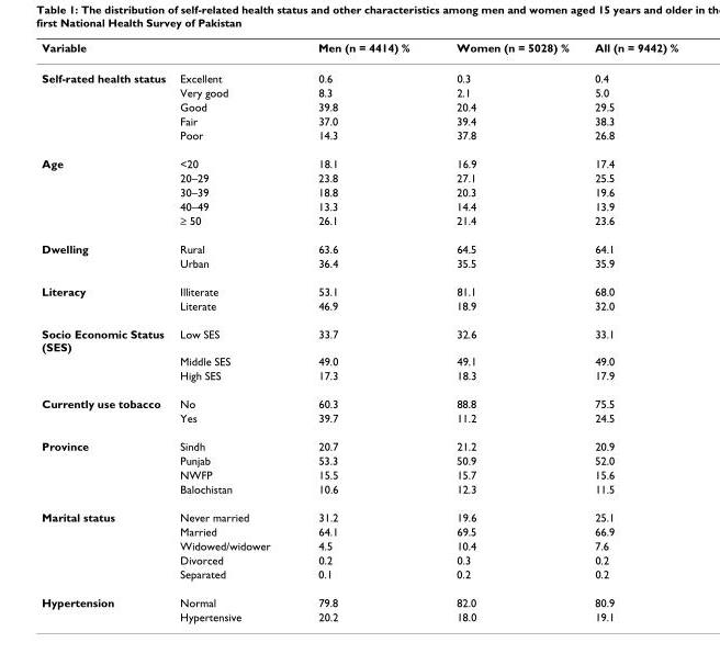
<table><thead><tr><td>Variable</td><td></td><td>Men (n = 4414) %</td><td>Women (n = 5028) %</td><td>All (n = 9442) %</td></tr></thead><tbody><tr><td rowspan="5">Self-rated health status</td><td>Excellent</td><td>0.6</td><td>0.3</td><td>0.4</td></tr><tr><td>Very good</td><td>8.3</td><td>2.1</td><td>5.0</td></tr><tr><td>Good</td><td>39.8</td><td>20.4</td><td>29.5</td></tr><tr><td>Fair</td><td>37.0</td><td>39.4</td><td>38.3</td></tr><tr><td>Poor</td><td>14.3</td><td>37.8</td><td>26.8</td></tr><tr><td rowspan="5">Age</td><td>&lt;20</td><td>18.1</td><td>16.9</td><td>17.4</td></tr><tr><td>20–29</td><td>23.8</td><td>27.1</td><td>25.5</td></tr><tr><td>30–39</td><td>18.8</td><td>20.3</td><td>19.6</td></tr><tr><td>40–49</td><td>13.3</td><td>14.4</td><td>13.9</td></tr><tr><td>≥ 50</td><td>26.1</td><td>21.4</td><td>23.6</td></tr><tr><td rowspan="2">Dwelling</td><td>Rural</td><td>63.6</td><td>64.5</td><td>64.1</td></tr><tr><td>Urban</td><td>36.4</td><td>35.5</td><td>35.9</td></tr><tr><td rowspan="2">Literacy</td><td>Illiterate</td><td>53.1</td><td>81.1</td><td>68.0</td></tr><tr><td>Literate</td><td>46.9</td><td>18.9</td><td>32.0</td></tr><tr><td rowspan="3">Socio Economic Status (SES)</td><td>Low SES</td><td>33.7</td><td>32.6</td><td>33.1</td></tr><tr><td>Middle SES</td><td>49.0</td><td>49.1</td><td>49.0</td></tr><tr><td>High SES</td><td>17.3</td><td>18.3</td><td>17.9</td></tr><tr><td rowspan="2">Currently use tobacco</td><td>No</td><td>60.3</td><td>88.8</td><td>75.5</td></tr><tr><td>Yes</td><td>39.7</td><td>11.2</td><td>24.5</td></tr><tr><td rowspan="4">Province</td><td>Sindh</td><td>20.7</td><td>21.2</td><td>20.9</td></tr><tr><td>Punjab</td><td>53.3</td><td>50.9</td><td>52.0</td></tr><tr><td>NWFP</td><td>15.5</td><td>15.7</td><td>15.6</td></tr><tr><td>Balochistan</td><td>10.6</td><td>12.3</td><td>11.5</td></tr><tr><td rowspan="5">Marital status</td><td>Never married</td><td>31.2</td><td>19.6</td><td>25.1</td></tr><tr><td>Married</td><td>64.1</td><td>69.5</td><td>66.9</td></tr><tr><td>Widowed/widower</td><td>4.5</td><td>10.4</td><td>7.6</td></tr><tr><td>Divorced</td><td>0.2</td><td>0.3</td><td>0.2</td></tr><tr><td>Separated</td><td>0.1</td><td>0.2</td><td>0.2</td></tr><tr><td rowspan="2">Hypertension</td><td>Normal</td><td>79.8</td><td>82.0</td><td>80.9</td></tr><tr><td>Hypertensive</td><td>20.2</td><td>18.0</td><td>19.1</td></tr></tbody></table>